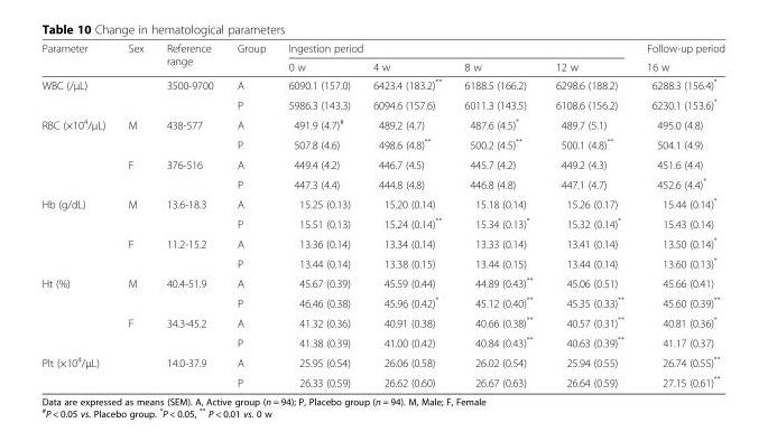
<table><thead><tr><td rowspan="2">Parameter</td><td rowspan="2">Sex</td><td rowspan="2">Reference range</td><td rowspan="2">Group</td><td colspan="4">Ingestion period</td><td rowspan="2">Follow-up period 16 w</td></tr><tr><td>0 w</td><td>4 w</td><td>8 w</td><td>12 w</td></tr></thead><tbody><tr><td rowspan="2">WBC (/μL)</td><td rowspan="2"></td><td rowspan="2">3500-9700</td><td>A</td><td>6090.1 (157.0)</td><td>6423.4 (183.2)**</td><td>6188.5 (166.2)</td><td>6298.6 (188.2)</td><td>6288.3 (156.4)*</td></tr><tr><td>P</td><td>5986.3 (143.3)</td><td>6094.6 (157.6)</td><td>6011.3 (143.5)</td><td>6108.6 (156.2)</td><td>6230.1 (153.6)*</td></tr><tr><td rowspan="4">RBC (×10<sup>4</sup>/μL)</td><td rowspan="2">M</td><td rowspan="2">438-577</td><td>A</td><td>491.9 (4.7)<sup>#</sup></td><td>489.2 (4.7)</td><td>487.6 (4.5)*</td><td>489.7 (5.1)</td><td>495.0 (4.8)</td></tr><tr><td>P</td><td>507.8 (4.6)</td><td>498.6 (4.8)**</td><td>500.2 (4.5)**</td><td>500.1 (4.8)**</td><td>504.1 (4.9)</td></tr><tr><td rowspan="2">F</td><td rowspan="2">376-516</td><td>A</td><td>449.4 (4.2)</td><td>446.7 (4.5)</td><td>445.7 (4.2)</td><td>449.2 (4.3)</td><td>451.6 (4.4)</td></tr><tr><td>P</td><td>447.3 (4.4)</td><td>444.8 (4.8)</td><td>446.8 (4.8)</td><td>447.1 (4.7)</td><td>452.6 (4.4)*</td></tr><tr><td rowspan="4">Hb (g/dL)</td><td rowspan="2">M</td><td rowspan="2">13.6-18.3</td><td>A</td><td>15.25 (0.13)</td><td>15.20 (0.14)</td><td>15.18 (0.14)</td><td>15.26 (0.17)</td><td>15.44 (0.14)*</td></tr><tr><td>P</td><td>15.51 (0.13)</td><td>15.24 (0.14)**</td><td>15.34 (0.13)*</td><td>15.32 (0.14)*</td><td>15.43 (0.14)</td></tr><tr><td rowspan="2">F</td><td rowspan="2">11.2-15.2</td><td>A</td><td>13.36 (0.14)</td><td>13.34 (0.14)</td><td>13.33 (0.14)</td><td>13.41 (0.14)</td><td>13.50 (0.14)*</td></tr><tr><td>P</td><td>13.44 (0.14)</td><td>13.38 (0.15)</td><td>13.44 (0.15)</td><td>13.44 (0.14)</td><td>13.60 (0.13)*</td></tr><tr><td rowspan="4">Ht (%)</td><td rowspan="2">M</td><td rowspan="2">40.4-51.9</td><td>A</td><td>45.67 (0.39)</td><td>45.59 (0.44)</td><td>44.89 (0.43)**</td><td>45.06 (0.51)</td><td>45.66 (0.41)</td></tr><tr><td>P</td><td>46.46 (0.38)</td><td>45.96 (0.42)*</td><td>45.12 (0.40)**</td><td>45.35 (0.33)**</td><td>45.60 (0.39)**</td></tr><tr><td rowspan="2">F</td><td rowspan="2">34.3-45.2</td><td>A</td><td>41.32 (0.36)</td><td>40.91 (0.38)</td><td>40.66 (0.38)**</td><td>40.57 (0.31)**</td><td>40.81 (0.36)*</td></tr><tr><td>P</td><td>41.38 (0.39)</td><td>41.00 (0.42)</td><td>40.84 (0.43)**</td><td>40.63 (0.39)**</td><td>41.17 (0.37)</td></tr><tr><td rowspan="2">Plt (×10<sup>4</sup>/μL)</td><td rowspan="2"></td><td rowspan="2">14.0-37.9</td><td>A</td><td>25.95 (0.54)</td><td>26.06 (0.58)</td><td>26.02 (0.54)</td><td>25.94 (0.55)</td><td>26.74 (0.55)**</td></tr><tr><td>P</td><td>26.33 (0.59)</td><td>26.62 (0.60)</td><td>26.67 (0.63)</td><td>26.64 (0.59)</td><td>27.15 (0.61)**</td></tr></tbody></table>